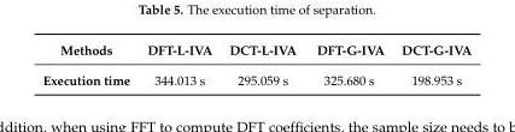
<table><thead><tr><td>Methods</td><td>DFT-L-IVA</td><td>DCT-L-IVA</td><td>DFT-G-IVA</td><td>DCT-G-IVA</td></tr></thead><tbody><tr><td>Execution time</td><td>344.013 s</td><td>295.059 s</td><td>325.680 s</td><td>198.953 s</td></tr></tbody></table>